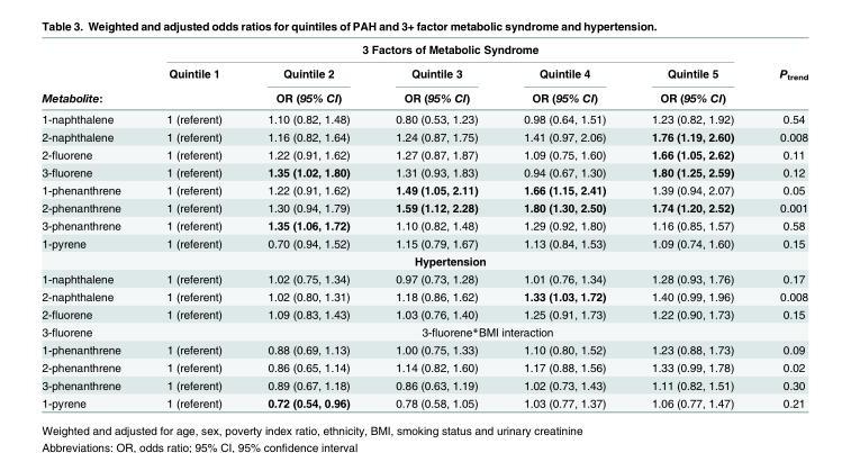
<table><thead><tr><td rowspan="3">Metabolite:</td><td colspan="5">3 Factors of Metabolic Syndrome</td><td rowspan="3">P<sub>trend</sub></td></tr><tr><td rowspan="2">Quintile 1</td><td rowspan="2">Quintile 2 OR (95% CI)</td><td rowspan="2">Quintile 3 OR (95% CI)</td><td rowspan="2">Quintile 4 OR (95% CI)</td><td rowspan="2">Quintile 5 OR (95% CI)</td></tr><tr></tr></thead><tbody><tr><td>1-naphthalene</td><td>1 (referent)</td><td>1.10 (0.82, 1.48)</td><td>0.80 (0.53, 1.23)</td><td>0.98 (0.64, 1.51)</td><td>1.23 (0.82, 1.92)</td><td>0.54</td></tr><tr><td>2-naphthalene</td><td>1 (referent)</td><td>1.16 (0.82, 1.64)</td><td>1.24 (0.87, 1.75)</td><td>1.41 (0.97, 2.06)</td><td>1.76 (1.19, 2.60)</td><td>0.008</td></tr><tr><td>2-fluorene</td><td>1 (referent)</td><td>1.22 (0.91, 1.62)</td><td>1.27 (0.87, 1.87)</td><td>1.09 (0.75, 1.60)</td><td>1.66 (1.05, 2.62)</td><td>0.11</td></tr><tr><td>3-fluorene</td><td>1 (referent)</td><td>1.35 (1.02, 1.80)</td><td>1.31 (0.93, 1.83)</td><td>0.94 (0.67, 1.30)</td><td>1.80 (1.25, 2.59)</td><td>0.12</td></tr><tr><td>1-phenanthrene</td><td>1 (referent)</td><td>1.22 (0.91, 1.62)</td><td>1.49 (1.05, 2.11)</td><td>1.66 (1.15, 2.41)</td><td>1.39 (0.94, 2.07)</td><td>0.05</td></tr><tr><td>2-phenanthrene</td><td>1 (referent)</td><td>1.30 (0.94, 1.79)</td><td>1.59 (1.12, 2.28)</td><td>1.80 (1.30, 2.50)</td><td>1.74 (1.20, 2.52)</td><td>0.001</td></tr><tr><td>3-phenanthrene</td><td>1 (referent)</td><td>1.35 (1.06, 1.72)</td><td>1.10 (0.82, 1.48)</td><td>1.29 (0.92, 1.80)</td><td>1.16 (0.85, 1.57)</td><td>0.58</td></tr><tr><td rowspan="2">1-pyrene</td><td>1 (referent)</td><td>0.70 (0.94, 1.52)</td><td>1.15 (0.79, 1.67)</td><td>1.13 (0.84, 1.53)</td><td>1.09 (0.74, 1.60)</td><td>0.15</td></tr><tr><td colspan="5">Hypertension</td><td></td></tr><tr><td>1-naphthalene</td><td>1 (referent)</td><td>1.02 (0.75, 1.34)</td><td>0.97 (0.73, 1.28)</td><td>1.01 (0.76, 1.34)</td><td>1.28 (0.93, 1.76)</td><td>0.17</td></tr><tr><td>2-naphthalene</td><td>1 (referent)</td><td>1.02 (0.80, 1.31)</td><td>1.18 (0.86, 1.62)</td><td>1.33 (1.03, 1.72)</td><td>1.40 (0.99, 1.96)</td><td>0.008</td></tr><tr><td>2-fluorene</td><td>1 (referent)</td><td>1.09 (0.83, 1.43)</td><td>1.03 (0.76, 1.40)</td><td>1.25 (0.91, 1.73)</td><td>1.22 (0.90, 1.73)</td><td>0.15</td></tr><tr><td>3-fluorene</td><td colspan="6">3-fluorene*BMI interaction</td></tr><tr><td>1-phenanthrene</td><td>1 (referent)</td><td>0.88 (0.69, 1.13)</td><td>1.00 (0.75, 1.33)</td><td>1.10 (0.80, 1.52)</td><td>1.23 (0.88, 1.73)</td><td>0.09</td></tr><tr><td>2-phenanthrene</td><td>1 (referent)</td><td>0.86 (0.65, 1.14)</td><td>1.14 (0.82, 1.60)</td><td>1.17 (0.88, 1.56)</td><td>1.33 (0.99, 1.78)</td><td>0.02</td></tr><tr><td>3-phenanthrene</td><td>1 (referent)</td><td>0.89 (0.67, 1.18)</td><td>0.86 (0.63, 1.19)</td><td>1.02 (0.73, 1.43)</td><td>1.11 (0.82, 1.51)</td><td>0.30</td></tr><tr><td>1-pyrene</td><td>1 (referent)</td><td>0.72 (0.54, 0.96)</td><td>0.78 (0.58, 1.05)</td><td>1.03 (0.77, 1.37)</td><td>1.06 (0.77, 1.47)</td><td>0.21</td></tr></tbody></table>